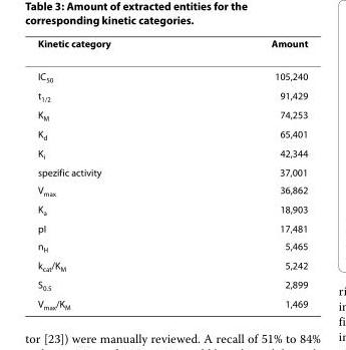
<table><thead><tr><td>Kinetic category</td><td>Amount</td></tr></thead><tbody><tr><td>IC<sub>50</sub></td><td>105,240</td></tr><tr><td>t<sub>1/2</sub></td><td>91,429</td></tr><tr><td>K<sub>M</sub></td><td>74,253</td></tr><tr><td>K<sub>d</sub></td><td>65,401</td></tr><tr><td>K<sub>i</sub></td><td>42,344</td></tr><tr><td>spezific activity</td><td>37,001</td></tr><tr><td>V<sub>max</sub></td><td>36,862</td></tr><tr><td>K<sub>a</sub></td><td>18,903</td></tr><tr><td>pI</td><td>17,481</td></tr><tr><td>n<sub>H</sub></td><td>5,465</td></tr><tr><td>k<sub>cat</sub>/K<sub>M</sub></td><td>5,242</td></tr><tr><td>S<sub>0.5</sub></td><td>2,899</td></tr><tr><td>V<sub>max</sub>/K<sub>M</sub></td><td>1,469</td></tr></tbody></table>